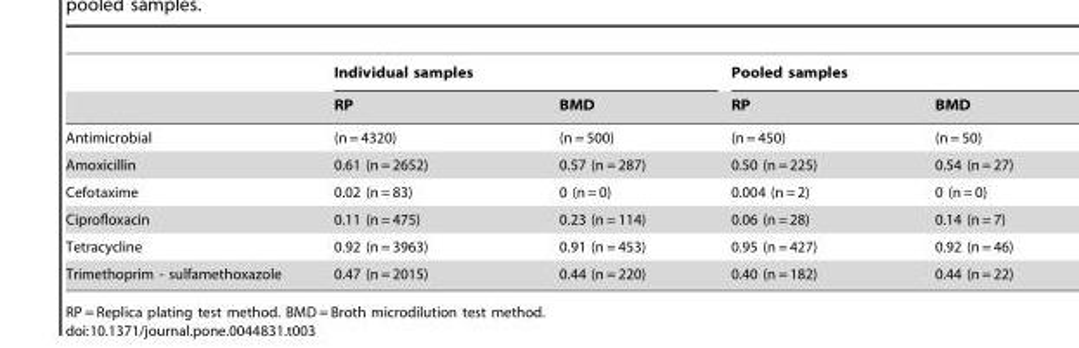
<table><thead><tr><td rowspan="2"></td><td colspan="2">Individual samples</td><td colspan="2">Pooled samples</td></tr><tr><td>RP</td><td>BMD</td><td>RP</td><td>BMD</td></tr></thead><tbody><tr><td>Antimicrobial</td><td>(n = 4320)</td><td>(n = 500)</td><td>(n = 450)</td><td>(n = 50)</td></tr><tr><td>Amoxicillin</td><td>0.61 (n = 2652)</td><td>0.57 (n = 287)</td><td>0.50 (n = 225)</td><td>0.54 (n = 27)</td></tr><tr><td>Cefotaxime</td><td>0.02 (n = 83)</td><td>0 (n = 0)</td><td>0.004 (n = 2)</td><td>0 (n = 0)</td></tr><tr><td>Ciprofloxacin</td><td>0.11 (n = 475)</td><td>0.23 (n = 114)</td><td>0.06 (n = 28)</td><td>0.14 (n = 7)</td></tr><tr><td>Tetracycline</td><td>0.92 (n = 3963)</td><td>0.91 (n = 453)</td><td>0.95 (n = 427)</td><td>0.92 (n = 46)</td></tr><tr><td>Trimethoprim - sulfamethoxazole</td><td>0.47 (n = 2015)</td><td>0.44 (n = 220)</td><td>0.40 (n = 182)</td><td>0.44 (n = 22)</td></tr></tbody></table>